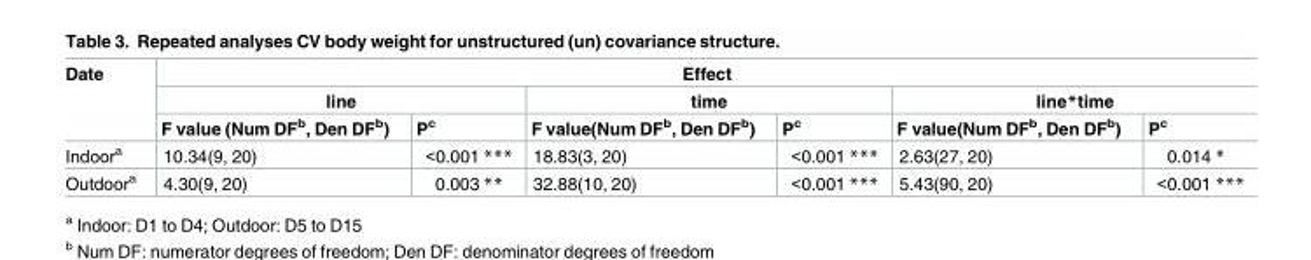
<table><thead><tr><td rowspan="3">Date</td><td colspan="6">Effect</td></tr><tr><td colspan="2">line</td><td colspan="2">time</td><td colspan="2">line*time</td></tr><tr><td>F value (Num DF<sup>b</sup>, Den DF<sup>b</sup>)</td><td>P<sup>c</sup></td><td>F value(Num DF<sup>b</sup>, Den DF<sup>b</sup>)</td><td>P<sup>c</sup></td><td>F value(Num DF<sup>b</sup>, Den DF<sup>b</sup>)</td><td>P<sup>c</sup></td></tr></thead><tbody><tr><td>Indoor<sup>a</sup></td><td>10.34(9, 20)</td><td>&lt;0.001 ***</td><td>18.83(3, 20)</td><td>&lt;0.001 ***</td><td>2.63(27, 20)</td><td>0.014 *</td></tr><tr><td>Outdoor<sup>a</sup></td><td>4.30(9, 20)</td><td>0.003 **</td><td>32.88(10, 20)</td><td>&lt;0.001 ***</td><td>5.43(90, 20)</td><td>&lt;0.001 ***</td></tr></tbody></table>